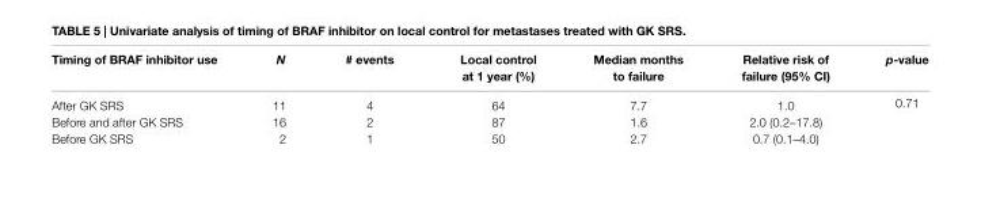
<table><thead><tr><td>Timing of BraF inhibitor use</td><td>N</td><td># events</td><td>local control at 1 year (%)</td><td>Median months to failure</td><td>relative risk of failure (95% ci)</td><td>p-value</td></tr></thead><tbody><tr><td>After GK SRS</td><td>11</td><td>4</td><td>64</td><td>7.7</td><td>1.0</td><td rowspan="3">0.71</td></tr><tr><td>Before and after GK SRS</td><td>16</td><td>2</td><td>87</td><td>1.6</td><td>2.0 (0.2–17.8)</td></tr><tr><td>Before GK SRS</td><td>2</td><td>1</td><td>50</td><td>2.7</td><td>0.7 (0.1–4.0)</td></tr></tbody></table>